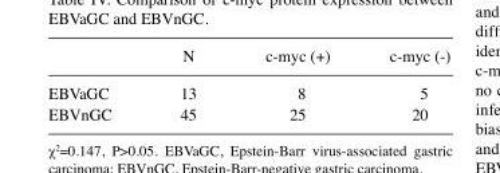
<table><thead><tr><td></td><td>N</td><td>c-myc (+)</td><td>c-myc (-)</td></tr></thead><tbody><tr><td>EBVaGC</td><td>13</td><td>8</td><td>5</td></tr><tr><td>EBVnGC</td><td>45</td><td>25</td><td>20</td></tr></tbody></table>